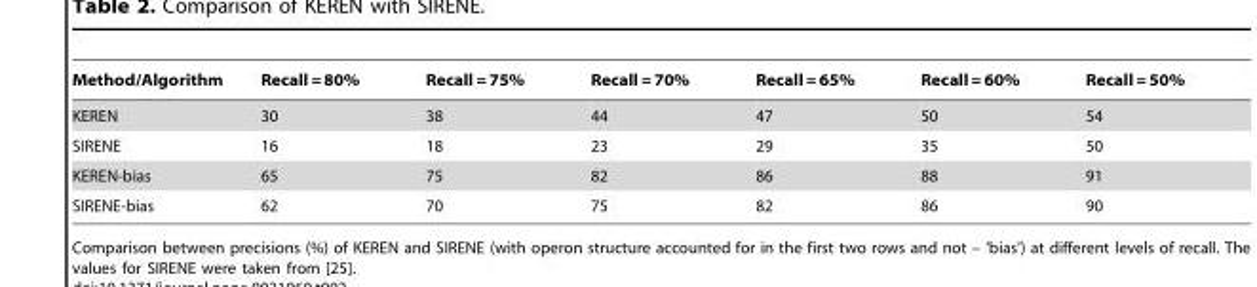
<table><thead><tr><td>Method/Algorithm</td><td>Recall = 80%</td><td>Recall = 75%</td><td>Recall = 70%</td><td>Recall = 65%</td><td>Recall = 60%</td><td>Recall = 50%</td></tr></thead><tbody><tr><td>KEREN</td><td>30</td><td>38</td><td>44</td><td>47</td><td>50</td><td>54</td></tr><tr><td>SIRENE</td><td>16</td><td>18</td><td>23</td><td>29</td><td>35</td><td>50</td></tr><tr><td>KEREN-bias</td><td>65</td><td>75</td><td>82</td><td>86</td><td>88</td><td>91</td></tr><tr><td>SIRENE-bias</td><td>62</td><td>70</td><td>75</td><td>82</td><td>86</td><td>90</td></tr></tbody></table>